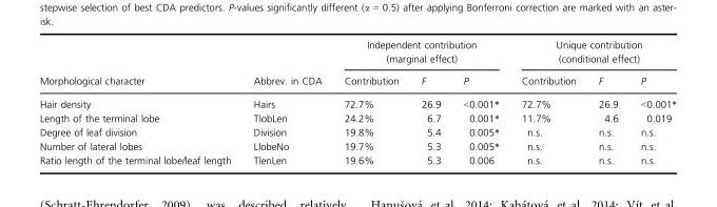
<table><thead><tr><td rowspan="2">Morphological character</td><td rowspan="2">Abbrev. in CDA</td><td colspan="3">Independent contribution (marginal effect)</td><td colspan="3">Unique contribution (conditional effect)</td></tr><tr><td>Contribution</td><td>F</td><td>P</td><td>Contribution</td><td>F</td><td>P</td></tr></thead><tbody><tr><td>Hair density</td><td>Hairs</td><td>72.7%</td><td>26.9</td><td>&lt;0.001*</td><td>72.7%</td><td>26.9</td><td>&lt;0.001*</td></tr><tr><td>Length of the terminal lobe</td><td>TlobLen</td><td>24.2%</td><td>6.7</td><td>0.001*</td><td>11.7%</td><td>4.6</td><td>0.019</td></tr><tr><td>Degree of leaf division</td><td>Division</td><td>19.8%</td><td>5.4</td><td>0.005*</td><td>n.s.</td><td>n.s.</td><td>n.s.</td></tr><tr><td>Number of lateral lobes</td><td>LlobeNo</td><td>19.7%</td><td>5.3</td><td>0.005*</td><td>n.s.</td><td>n.s.</td><td>n.s.</td></tr><tr><td>Ratio length of the terminal lobe/leaf length</td><td>TlenLen</td><td>19.6%</td><td>5.3</td><td>0.006</td><td>n.s.</td><td>n.s.</td><td>n.s.</td></tr></tbody></table>